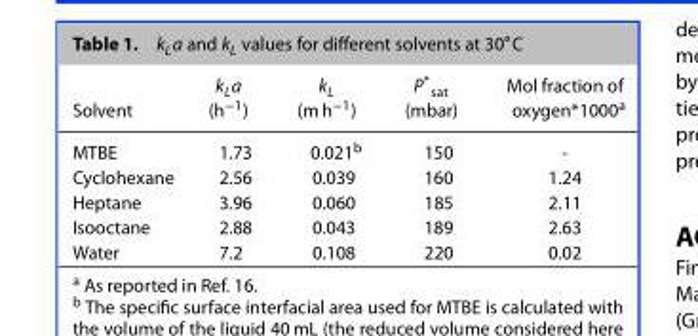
<table><thead><tr><td>Solvent</td><td>k<sub>L</sub>a (h<sup>−1</sup>)</td><td>k<sub>L</sub> (m h<sup>−1</sup>)</td><td>P* <sub>sat</sub> (mbar)</td><td>Mol fraction of oxygen*1000<sup>a</sup></td></tr></thead><tbody><tr><td>MTBE</td><td>1.73</td><td>0.021<sup>b</sup></td><td>150</td><td>-</td></tr><tr><td>Cyclohexane</td><td>2.56</td><td>0.039</td><td>160</td><td>1.24</td></tr><tr><td>Heptane</td><td>3.96</td><td>0.060</td><td>185</td><td>2.11</td></tr><tr><td>Isooctane</td><td>2.88</td><td>0.043</td><td>189</td><td>2.63</td></tr><tr><td>Water</td><td>7.2</td><td>0.108</td><td>220</td><td>0.02</td></tr></tbody></table>